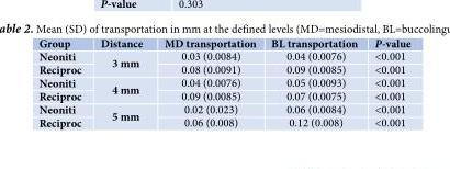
<table><thead><tr><td>Group</td><td>Distance</td><td>MD transportation</td><td>BL transportation</td><td>P-value</td></tr></thead><tbody><tr><td>Neoniti</td><td rowspan="2">3 mm</td><td>0.03 (0.0084)</td><td>0.04 (0.0076)</td><td>&lt;0.001</td></tr><tr><td>Reciproc</td><td>0.08 (0.0091)</td><td>0.09 (0.0085)</td><td>&lt;0.001</td></tr><tr><td>Neoniti</td><td rowspan="2">4 mm</td><td>0.04 (0.0076)</td><td>0.05 (0.0093)</td><td>&lt;0.001</td></tr><tr><td>Reciproc</td><td>0.09 (0.0085)</td><td>0.07 (0.0075)</td><td>&lt;0.001</td></tr><tr><td>Neoniti</td><td rowspan="2">5 mm</td><td>0.02 (0.023)</td><td>0.06 (0.0084)</td><td>&lt;0.001</td></tr><tr><td>Reciproc</td><td>0.06 (0.008)</td><td>0.12 (0.008)</td><td>&lt;0.001</td></tr></tbody></table>